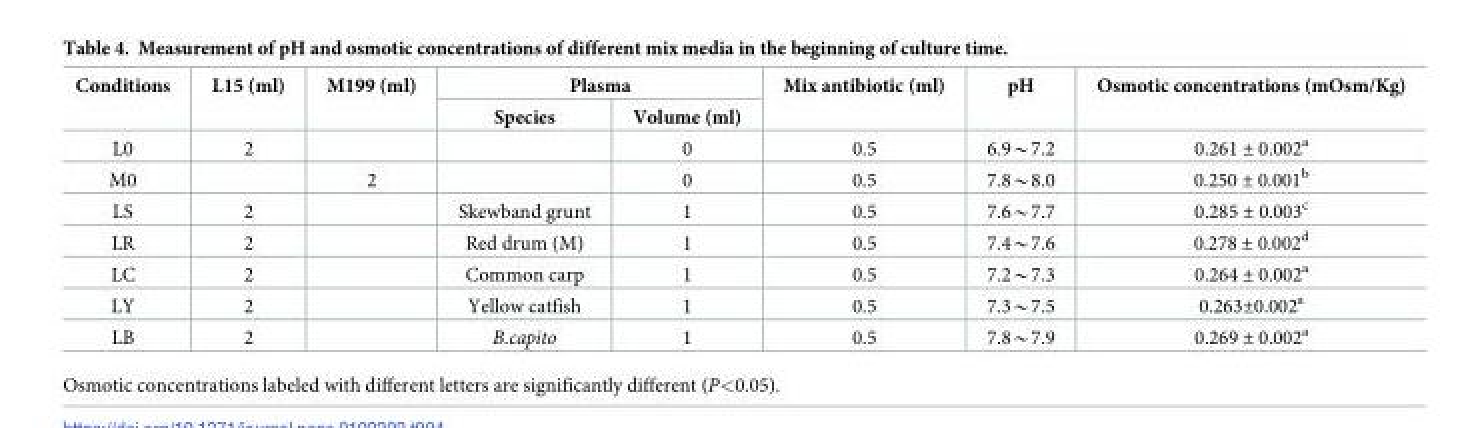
<table><thead><tr><td rowspan="2">Conditions</td><td rowspan="2">L15 (ml)</td><td rowspan="2">M199 (ml)</td><td colspan="2">Plasma</td><td rowspan="2">Mix antibiotic (ml)</td><td rowspan="2">pH</td><td rowspan="2">Osmotic concentrations (mOsm/Kg)</td></tr><tr><td>Species</td><td>Volume (ml)</td></tr></thead><tbody><tr><td>L0</td><td>2</td><td></td><td></td><td>0</td><td>0.5</td><td>6.9*7.2</td><td>0.261 ± 0.002<sup>a</sup></td></tr><tr><td>M0</td><td></td><td>2</td><td></td><td>0</td><td>0.5</td><td>7.8*8.0</td><td>0.250 ± 0.001<sup>b</sup></td></tr><tr><td>LS</td><td>2</td><td></td><td>Skewband grunt</td><td>1</td><td>0.5</td><td>7.6*7.7</td><td>0.285 ± 0.003<sup>c</sup></td></tr><tr><td>LR</td><td>2</td><td></td><td>Red drum (M)</td><td>1</td><td>0.5</td><td>7.4*7.6</td><td>0.278 ± 0.002<sup>d</sup></td></tr><tr><td>LC</td><td>2</td><td></td><td>Common carp</td><td>1</td><td>0.5</td><td>7.2*7.3</td><td>0.264 ± 0.002<sup>a</sup></td></tr><tr><td>LY</td><td>2</td><td></td><td>Yellow catfish</td><td>1</td><td>0.5</td><td>7.3*7.5</td><td>0.263±0.002<sup>a</sup></td></tr><tr><td>LB</td><td>2</td><td></td><td>B.capito</td><td>1</td><td>0.5</td><td>7.8*7.9</td><td>0.269 ± 0.002<sup>a</sup></td></tr></tbody></table>